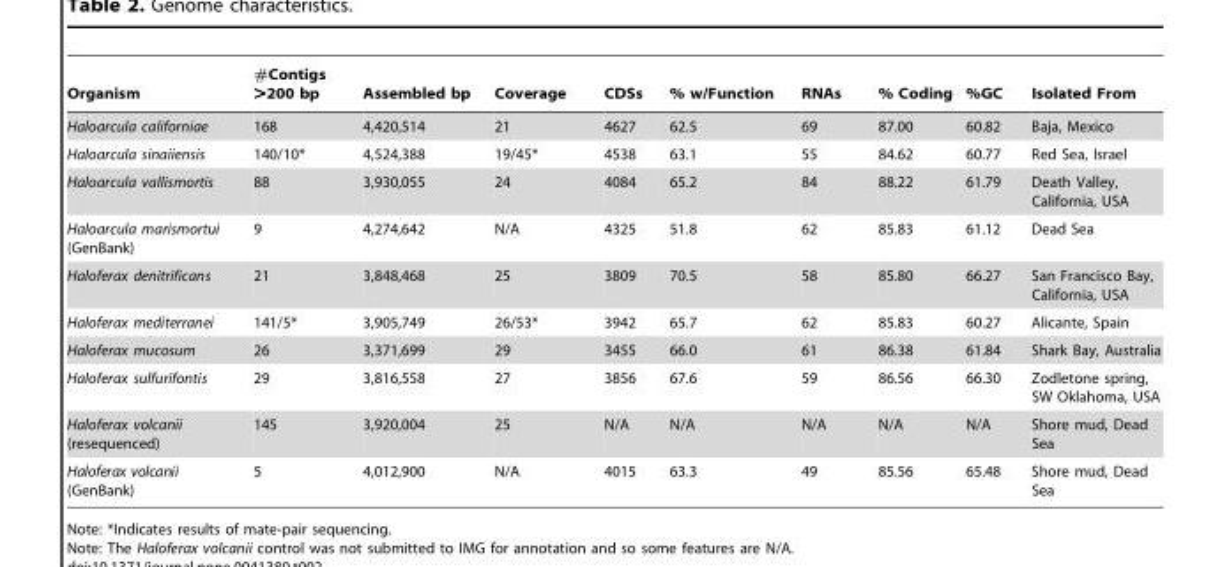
<table><thead><tr><td>Organism</td><td>#Contigs &gt;200 bp</td><td>Assembled bp</td><td>Coverage</td><td>CDSs</td><td>% w/Function</td><td>RNAs</td><td>% Coding</td><td>%GC</td><td>Isolated From</td></tr></thead><tbody><tr><td>Haloarcula californiae</td><td>168</td><td>4,420,514</td><td>21</td><td>4627</td><td>62.5</td><td>69</td><td>87.00</td><td>60.82</td><td>Baja, Mexico</td></tr><tr><td>Haloarcula sinaiiensis</td><td>140/10*</td><td>4,524,388</td><td>19/45*</td><td>4538</td><td>63.1</td><td>55</td><td>84.62</td><td>60.77</td><td>Red Sea, Israel</td></tr><tr><td>Haloarcula vallismortis</td><td>88</td><td>3,930,055</td><td>24</td><td>4084</td><td>65.2</td><td>84</td><td>88.22</td><td>61.79</td><td>Death Valley, California, USA</td></tr><tr><td>Haloarcula marismortui (GenBank)</td><td>9</td><td>4,274,642</td><td>N/A</td><td>4325</td><td>51.8</td><td>62</td><td>85.83</td><td>61.12</td><td>Dead Sea</td></tr><tr><td>Haloferax denitrificans</td><td>21</td><td>3,848,468</td><td>25</td><td>3809</td><td>70.5</td><td>58</td><td>85.80</td><td>66.27</td><td>San Francisco Bay, California, USA</td></tr><tr><td>Haloferax mediterranei</td><td>141/5*</td><td>3,905,749</td><td>26/53*</td><td>3942</td><td>65.7</td><td>62</td><td>85.83</td><td>60.27</td><td>Alicante, Spain</td></tr><tr><td>Haloferax mucosum</td><td>26</td><td>3,371,699</td><td>29</td><td>3455</td><td>66.0</td><td>61</td><td>86.38</td><td>61.84</td><td>Shark Bay, Australia</td></tr><tr><td>Haloferax sulfurifontis</td><td>29</td><td>3,816,558</td><td>27</td><td>3856</td><td>67.6</td><td>59</td><td>86.56</td><td>66.30</td><td>Zodletone spring, SW Oklahoma, USA</td></tr><tr><td>Haloferax volcanii (resequenced)</td><td>145</td><td>3,920,004</td><td>25</td><td>N/A</td><td>N/A</td><td>N/A</td><td>N/A</td><td>N/A</td><td>Shore mud, Dead Sea</td></tr><tr><td>Haloferax volcanii (GenBank)</td><td>5</td><td>4,012,900</td><td>N/A</td><td>4015</td><td>63.3</td><td>49</td><td>85.56</td><td>65.48</td><td>Shore mud, Dead Sea</td></tr></tbody></table>